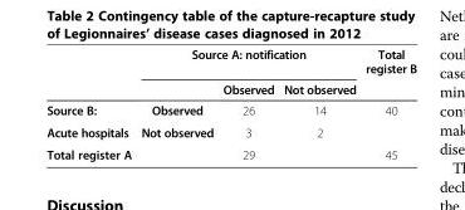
<table><thead><tr><td rowspan="2"></td><td colspan="3">Source A: notification</td><td rowspan="2">Total register B</td></tr><tr><td></td><td>Observed</td><td>Not observed</td></tr></thead><tbody><tr><td>Source B:</td><td>Observed</td><td>26</td><td>14</td><td>40</td></tr><tr><td>Acute hospitals</td><td>Not observed</td><td>3</td><td>2</td><td></td></tr><tr><td>Total register A</td><td></td><td>29</td><td></td><td>45</td></tr></tbody></table>